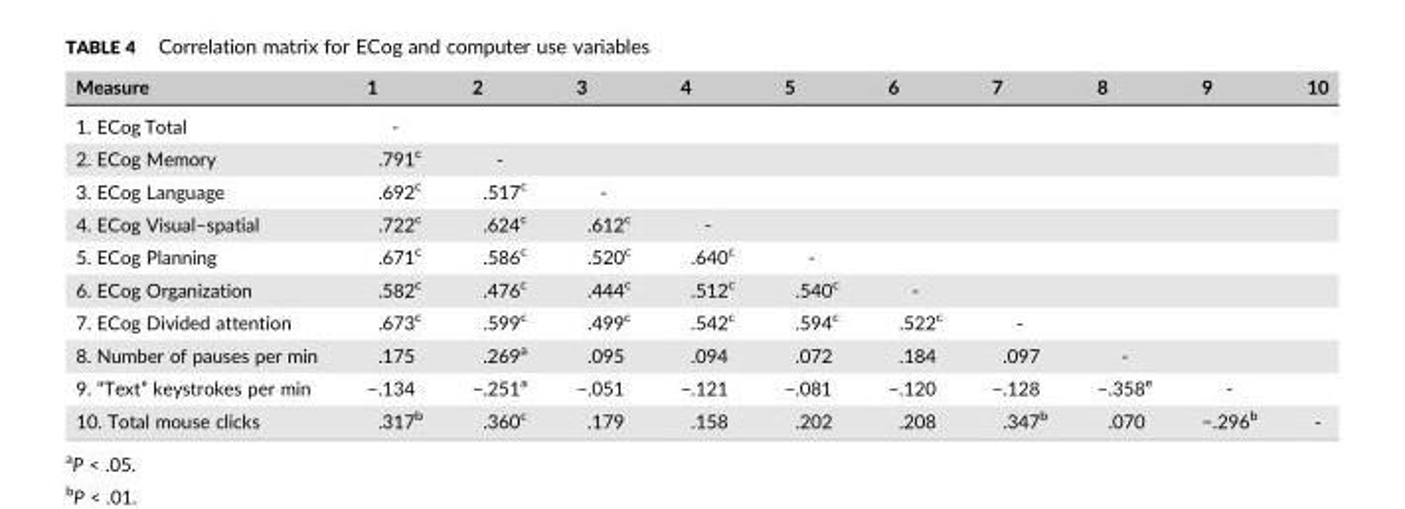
<table><thead><tr><td>Measure</td><td>1</td><td>2</td><td>3</td><td>4</td><td>5</td><td>6</td><td>7</td><td>8</td><td>9</td><td>10</td></tr></thead><tbody><tr><td>1. ECog Total</td><td>‐</td><td></td><td></td><td></td><td></td><td></td><td></td><td></td><td></td><td></td></tr><tr><td>2. ECog Memory</td><td>.791<sup>c</sup></td><td>‐</td><td></td><td></td><td></td><td></td><td></td><td></td><td></td><td></td></tr><tr><td>3. ECog Language</td><td>.692<sup>c</sup></td><td>.517<sup>c</sup></td><td>‐</td><td></td><td></td><td></td><td></td><td></td><td></td><td></td></tr><tr><td>4. ECog Visual–spatial</td><td>.722<sup>c</sup></td><td>.624<sup>c</sup></td><td>.612<sup>c</sup></td><td>‐</td><td></td><td></td><td></td><td></td><td></td><td></td></tr><tr><td>5. ECog Planning</td><td>.671<sup>c</sup></td><td>.586<sup>c</sup></td><td>.520<sup>c</sup></td><td>.640<sup>c</sup></td><td>‐</td><td></td><td></td><td></td><td></td><td></td></tr><tr><td>6. ECog Organization</td><td>.582<sup>c</sup></td><td>.476<sup>c</sup></td><td>.444<sup>c</sup></td><td>.512<sup>c</sup></td><td>.540<sup>c</sup></td><td>‐</td><td></td><td></td><td></td><td></td></tr><tr><td>7. ECog Divided attention</td><td>.673<sup>c</sup></td><td>.599<sup>c</sup></td><td>.499<sup>c</sup></td><td>.542<sup>c</sup></td><td>.594<sup>c</sup></td><td>.522<sup>c</sup></td><td>‐</td><td></td><td></td><td></td></tr><tr><td>8. Number of pauses per min</td><td>.175</td><td>.269<sup>a</sup></td><td>.095</td><td>.094</td><td>.072</td><td>.184</td><td>.097</td><td>‐</td><td></td><td></td></tr><tr><td>9. “Text” keystrokes per min</td><td>−.134</td><td>−.251<sup>a</sup></td><td>−.051</td><td>−.121</td><td>−.081</td><td>−.120</td><td>−.128</td><td>−.358<sup>e</sup></td><td>‐</td><td></td></tr><tr><td>10. Total mouse clicks</td><td>.317<sup>b</sup></td><td>.360<sup>c</sup></td><td>.179</td><td>.158</td><td>.202</td><td>.208</td><td>.347<sup>b</sup></td><td>.070</td><td>−.296<sup>b</sup></td><td>‐</td></tr></tbody></table>